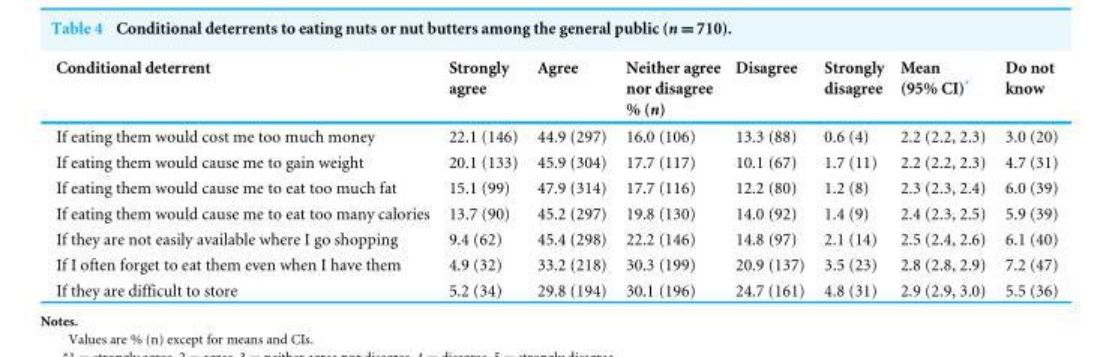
<table><thead><tr><td rowspan="2">Conditional deterrent</td><td rowspan="2">Strongly agree</td><td rowspan="2">Agree</td><td rowspan="2">Neither agree nor disagree % (n)</td><td rowspan="2">Disagree</td><td rowspan="2">Strongly disagree</td><td rowspan="2">Mean (95% CI)*</td><td rowspan="2">Do not know</td></tr><tr></tr></thead><tbody><tr><td>If eating them would cost me too much money</td><td>22.1 (146)</td><td>44.9 (297)</td><td>16.0 (106)</td><td>13.3 (88)</td><td>0.6 (4)</td><td>2.2 (2.2, 2.3)</td><td>3.0 (20)</td></tr><tr><td>If eating them would cause me to gain weight</td><td>20.1 (133)</td><td>45.9 (304)</td><td>17.7 (117)</td><td>10.1 (67)</td><td>1.7 (11)</td><td>2.2 (2.2, 2.3)</td><td>4.7 (31)</td></tr><tr><td>If eating them would cause me to eat too much fat</td><td>15.1 (99)</td><td>47.9 (314)</td><td>17.7 (116)</td><td>12.2 (80)</td><td>1.2 (8)</td><td>2.3 (2.3, 2.4)</td><td>6.0 (39)</td></tr><tr><td>If eating them would cause me to eat too many calories</td><td>13.7 (90)</td><td>45.2 (297)</td><td>19.8 (130)</td><td>14.0 (92)</td><td>1.4 (9)</td><td>2.4 (2.3, 2.5)</td><td>5.9 (39)</td></tr><tr><td>If they are not easily available where I go shopping</td><td>9.4 (62)</td><td>45.4 (298)</td><td>22.2 (146)</td><td>14.8 (97)</td><td>2.1 (14)</td><td>2.5 (2.4, 2.6)</td><td>6.1 (40)</td></tr><tr><td>If I often forget to eat them even when I have them</td><td>4.9 (32)</td><td>33.2 (218)</td><td>30.3 (199)</td><td>20.9 (137)</td><td>3.5 (23)</td><td>2.8 (2.8, 2.9)</td><td>7.2 (47)</td></tr><tr><td>If they are difficult to store</td><td>5.2 (34)</td><td>29.8 (194)</td><td>30.1 (196)</td><td>24.7 (161)</td><td>4.8 (31)</td><td>2.9 (2.9, 3.0)</td><td>5.5 (36)</td></tr></tbody></table>